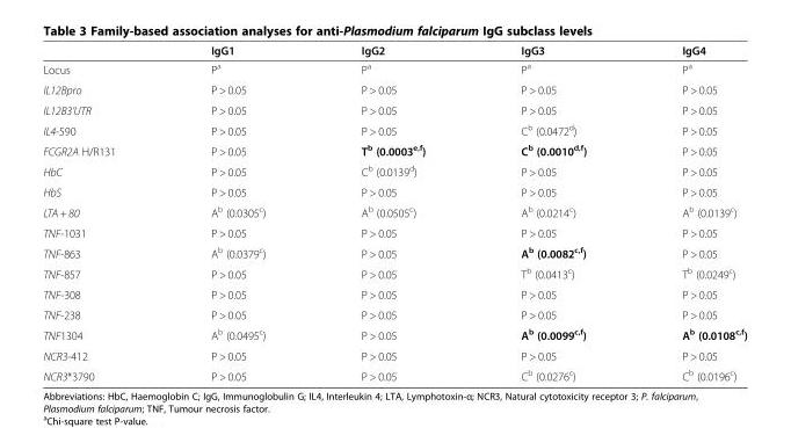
<table><thead><tr><td></td><td>IgG1</td><td>IgG2</td><td>IgG3</td><td>IgG4</td></tr></thead><tbody><tr><td>Locus</td><td>P<sup>a</sup></td><td>P<sup>a</sup></td><td>P<sup>a</sup></td><td>P<sup>a</sup></td></tr><tr><td>IL12Bpro</td><td>P &gt; 0.05</td><td>P &gt; 0.05</td><td>P &gt; 0.05</td><td>P &gt; 0.05</td></tr><tr><td>IL12B3’UTR</td><td>P &gt; 0.05</td><td>P &gt; 0.05</td><td>P &gt; 0.05</td><td>P &gt; 0.05</td></tr><tr><td>IL4-590</td><td>P &gt; 0.05</td><td>P &gt; 0.05</td><td>C<sup>b</sup> (0.0472<sup>d</sup>)</td><td>P &gt; 0.05</td></tr><tr><td>FCGR2A H/R131</td><td>P &gt; 0.05</td><td>T<sup>b</sup> (0.0003<sup>e,f</sup>)</td><td>C<sup>b</sup> (0.0010<sup>d,f</sup>)</td><td>P &gt; 0.05</td></tr><tr><td>HbC</td><td>P &gt; 0.05</td><td>C<sup>b</sup> (0.0139<sup>d</sup>)</td><td>P &gt; 0.05</td><td>P &gt; 0.05</td></tr><tr><td>HbS</td><td>P &gt; 0.05</td><td>P &gt; 0.05</td><td>P &gt; 0.05</td><td>P &gt; 0.05</td></tr><tr><td>LTA + 80</td><td>A<sup>b</sup> (0.0305<sup>c</sup>)</td><td>A<sup>b</sup> (0.0505<sup>c</sup>)</td><td>A<sup>b</sup> (0.0214<sup>c</sup>)</td><td>A<sup>b</sup> (0.0139<sup>c</sup>)</td></tr><tr><td>TNF-1031</td><td>P &gt; 0.05</td><td>P &gt; 0.05</td><td>P &gt; 0.05</td><td>P &gt; 0.05</td></tr><tr><td>TNF-863</td><td>A<sup>b</sup> (0.0379<sup>c</sup>)</td><td>P &gt; 0.05</td><td>A<sup>b</sup> (0.0082<sup>c,f</sup>)</td><td>P &gt; 0.05</td></tr><tr><td>TNF-857</td><td>P &gt; 0.05</td><td>P &gt; 0.05</td><td>T<sup>b</sup> (0.0413<sup>c</sup>)</td><td>T<sup>b</sup> (0.0249<sup>c</sup>)</td></tr><tr><td>TNF-308</td><td>P &gt; 0.05</td><td>P &gt; 0.05</td><td>P &gt; 0.05</td><td>P &gt; 0.05</td></tr><tr><td>TNF-238</td><td>P &gt; 0.05</td><td>P &gt; 0.05</td><td>P &gt; 0.05</td><td>P &gt; 0.05</td></tr><tr><td>TNF1304</td><td>A<sup>b</sup> (0.0495<sup>c</sup>)</td><td>P &gt; 0.05</td><td>A<sup>b</sup> (0.0099<sup>c,f</sup>)</td><td>A<sup>b</sup> (0.0108<sup>c,f</sup>)</td></tr><tr><td>NCR3-412</td><td>P &gt; 0.05</td><td>P &gt; 0.05</td><td>P &gt; 0.05</td><td>P &gt; 0.05</td></tr><tr><td>NCR3*3790</td><td>P &gt; 0.05</td><td>P &gt; 0.05</td><td>C<sup>b</sup> (0.0276<sup>c</sup>)</td><td>C<sup>b</sup> (0.0196<sup>c</sup>)</td></tr></tbody></table>